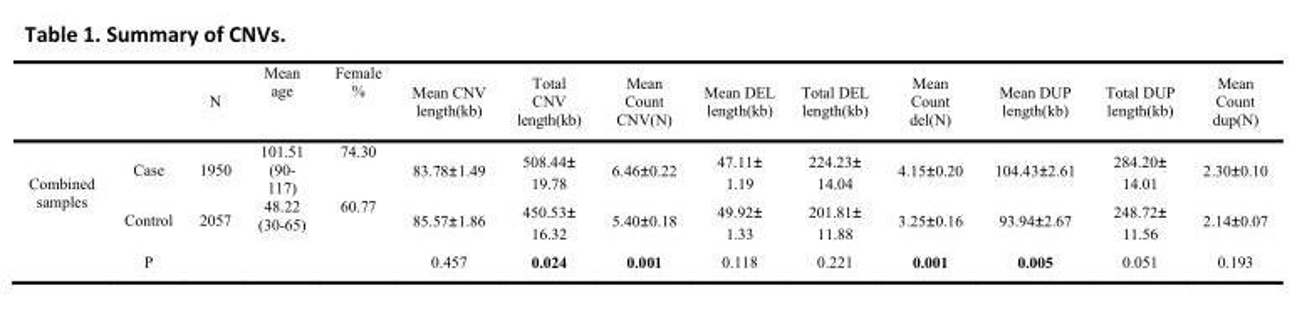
<table><thead><tr><td></td><td></td><td>N</td><td>Mean age</td><td>Female %</td><td>Mean CNV length(kb)</td><td>Total CNV length(kb)</td><td>Mean Count CNV(N)</td><td>Mean DEL length(kb)</td><td>Total DEL length(kb)</td><td>Mean Count del(N)</td><td>Mean DUP length(kb)</td><td>Total DUP length(kb)</td><td>Mean Count dup(N)</td></tr></thead><tbody><tr><td rowspan="3">Combined samples</td><td>Case</td><td>1950</td><td>101.51 (90- 117)</td><td>74.30</td><td>83.78±1.49</td><td>508.44± 19.78</td><td>6.46±0.22</td><td>47.11± 1.19</td><td>224.23± 14.04</td><td>4.15±0.20</td><td>104.43±2.61</td><td>284.20± 14.01</td><td>2.30±0.10</td></tr><tr><td>Control</td><td>2057</td><td>48.22 (30-65)</td><td>60.77</td><td>85.57±1.86</td><td>450.53± 16.32</td><td>5.40±0.18</td><td>49.92± 1.33</td><td>201.81± 11.88</td><td>3.25±0.16</td><td>93.94±2.67</td><td>248.72± 11.56</td><td>2.14±0.07</td></tr><tr><td>P</td><td></td><td></td><td></td><td>0.457</td><td>0.024</td><td>0.001</td><td>0.118</td><td>0.221</td><td>0.001</td><td>0.005</td><td>0.051</td><td>0.193</td></tr></tbody></table>